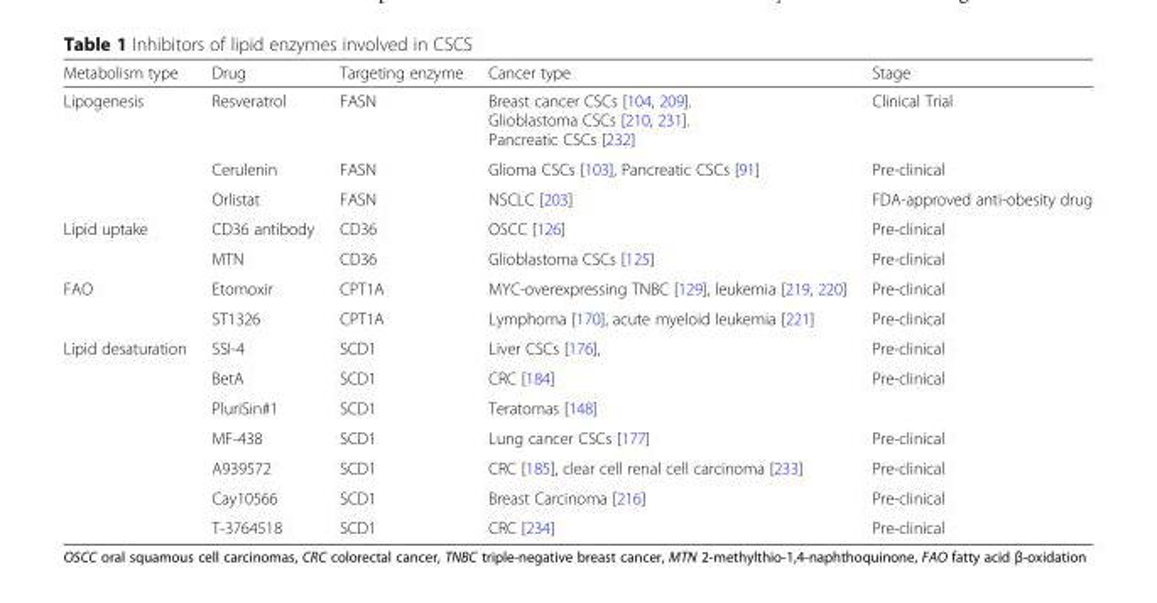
<table><thead><tr><td>Metabolism type</td><td>Drug</td><td>Targeting enzyme</td><td>Cancer type</td><td>Stage</td></tr></thead><tbody><tr><td rowspan="3">Lipogenesis</td><td>Resveratrol</td><td>FASN</td><td>Breast cancer CSCs [104, 209]. Glioblastoma CSCs [210, 231]. Pancreatic CSCs [232]</td><td>Clinical Trial</td></tr><tr><td>Cerulenin</td><td>FASN</td><td>Glioma CSCs [103], Pancreatic CSCs [91]</td><td>Pre-clinical</td></tr><tr><td>Orlistat</td><td>FASN</td><td>NSCLC [203]</td><td>FDA-approved anti-obesity drug</td></tr><tr><td rowspan="2">Lipid uptake</td><td>CD36 antibody</td><td>CD36</td><td>OSCC [126]</td><td>Pre-clinical</td></tr><tr><td>MTN</td><td>CD36</td><td>Glioblastoma CSCs [125]</td><td>Pre-clinical</td></tr><tr><td rowspan="2">FAO</td><td>Etomoxir</td><td>CPT1A</td><td>MYC-overexpressing TNBC [129], leukemia [219, 220]</td><td>Pre-clinical</td></tr><tr><td>ST1326</td><td>CPT1A</td><td>Lymphoma [170], acute myeloid leukemia [221]</td><td>Pre-clinical</td></tr><tr><td rowspan="7">Lipid desaturation</td><td>SSI-4</td><td>SCD1</td><td>Liver CSCs [176],</td><td>Pre-clinical</td></tr><tr><td>BetA</td><td>SCD1</td><td>CRC [184]</td><td rowspan="2">Pre-clinical</td></tr><tr><td>PluriSin#1</td><td>SCD1</td><td>Teratomas [148]</td></tr><tr><td>MF-438</td><td>SCD1</td><td>Lung cancer CSCs [177]</td><td>Pre-clinical</td></tr><tr><td>A939572</td><td>SCD1</td><td>CRC [185], clear cell renal cell carcinoma [233]</td><td>Pre-clinical</td></tr><tr><td>Cay10566</td><td>SCD1</td><td>Breast Carcinoma [216]</td><td>Pre-clinical</td></tr><tr><td>T-3764518</td><td>SCD1</td><td>CRC [234]</td><td>Pre-clinical</td></tr></tbody></table>